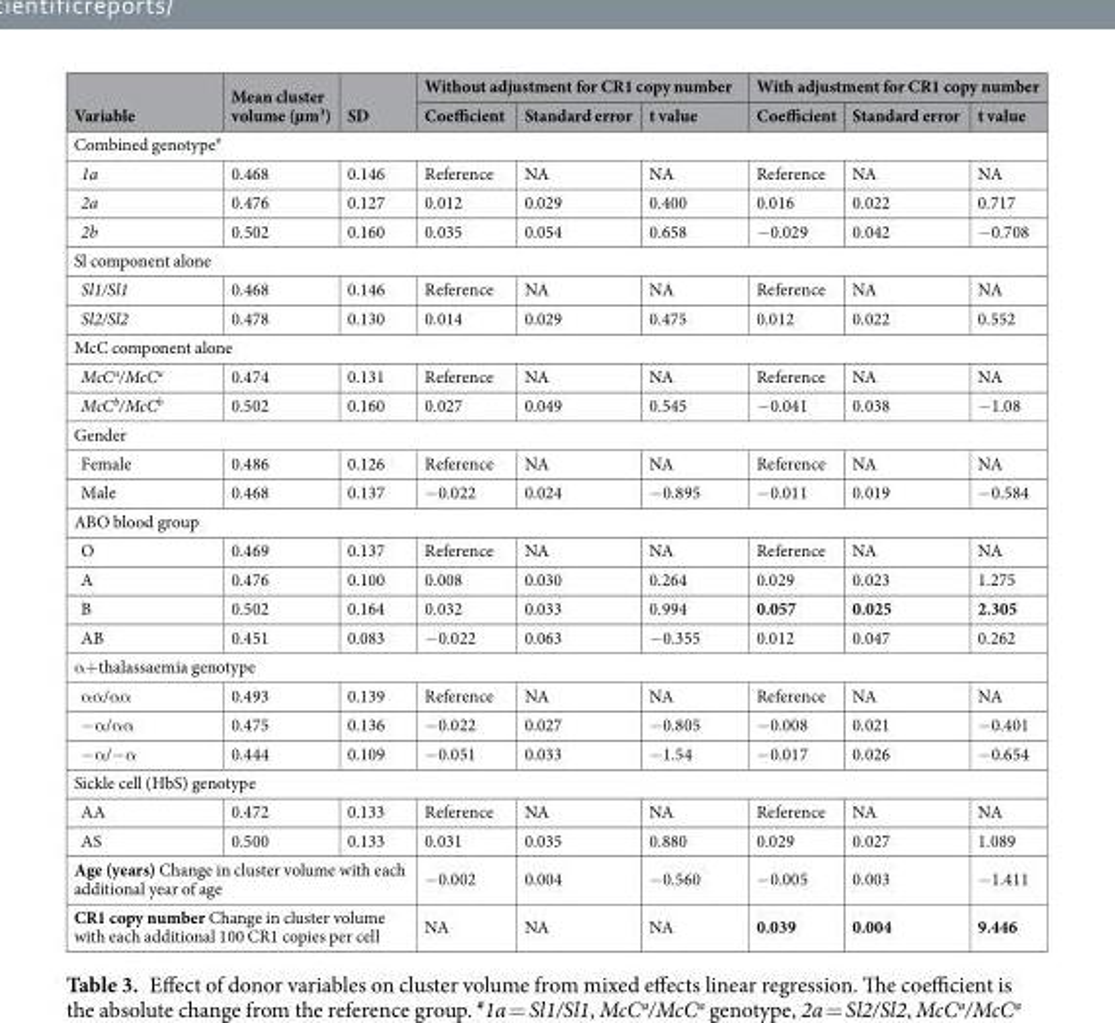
<table><thead><tr><td rowspan="2">Variable</td><td rowspan="2">Mean cluster volume (µm<sup>3</sup>)</td><td rowspan="2">SD</td><td colspan="3">Without adjustment for CR1 copy number</td><td colspan="3">With adjustment for CR1 copy number</td></tr><tr><td>Coefficient</td><td>Standard error</td><td>t value</td><td>Coefficient</td><td>Standard error</td><td>t value</td></tr></thead><tbody><tr><td colspan="9">Combined genotype<sup>#</sup></td></tr><tr><td>1a</td><td>0.468</td><td>0.146</td><td>Reference</td><td>NA</td><td>NA</td><td>Reference</td><td>NA</td><td>NA</td></tr><tr><td>2a</td><td>0.476</td><td>0.127</td><td>0.012</td><td>0.029</td><td>0.400</td><td>0.016</td><td>0.022</td><td>0.717</td></tr><tr><td>2b</td><td>0.502</td><td>0.160</td><td>0.035</td><td>0.054</td><td>0.658</td><td>−0.029</td><td>0.042</td><td>−0.708</td></tr><tr><td colspan="9">Sl component alone</td></tr><tr><td>Sl1/Sl1</td><td>0.468</td><td>0.146</td><td>Reference</td><td>NA</td><td>NA</td><td>Reference</td><td>NA</td><td>NA</td></tr><tr><td>Sl2/Sl2</td><td>0.478</td><td>0.130</td><td>0.014</td><td>0.029</td><td>0.475</td><td>0.012</td><td>0.022</td><td>0.552</td></tr><tr><td colspan="9">McC component alone</td></tr><tr><td>McC<sup>a</sup>/McC<sup>a</sup></td><td>0.474</td><td>0.131</td><td>Reference</td><td>NA</td><td>NA</td><td>Reference</td><td>NA</td><td>NA</td></tr><tr><td>McC<sup>b</sup>/McC<sup>b</sup></td><td>0.502</td><td>0.160</td><td>0.027</td><td>0.049</td><td>0.545</td><td>−0.041</td><td>0.038</td><td>−1.08</td></tr><tr><td colspan="9">Gender</td></tr><tr><td>Female</td><td>0.486</td><td>0.126</td><td>Reference</td><td>NA</td><td>NA</td><td>Reference</td><td>NA</td><td>NA</td></tr><tr><td>Male</td><td>0.468</td><td>0.137</td><td>−0.022</td><td>0.024</td><td>−0.895</td><td>−0.011</td><td>0.019</td><td>−0.584</td></tr><tr><td colspan="9">ABO blood group</td></tr><tr><td>O</td><td>0.469</td><td>0.137</td><td>Reference</td><td>NA</td><td>NA</td><td>Reference</td><td>NA</td><td>NA</td></tr><tr><td>A</td><td>0.476</td><td>0.100</td><td>0.008</td><td>0.030</td><td>0.264</td><td>0.029</td><td>0.023</td><td>1.275</td></tr><tr><td>B</td><td>0.502</td><td>0.164</td><td>0.032</td><td>0.033</td><td>0.994</td><td>0.057</td><td>0.025</td><td>2.305</td></tr><tr><td>AB</td><td>0.451</td><td>0.083</td><td>−0.022</td><td>0.063</td><td>−0.355</td><td>0.012</td><td>0.047</td><td>0.262</td></tr><tr><td colspan="9">α+thalassaemia genotype</td></tr><tr><td>αα/αα</td><td>0.493</td><td>0.139</td><td>Reference</td><td>NA</td><td>NA</td><td>Reference</td><td>NA</td><td>NA</td></tr><tr><td>−α/αα</td><td>0.475</td><td>0.136</td><td>−0.022</td><td>0.027</td><td>−0.805</td><td>−0.008</td><td>0.021</td><td>−0.401</td></tr><tr><td>−α/−α</td><td>0.444</td><td>0.109</td><td>−0.051</td><td>0.033</td><td>−1.54</td><td>−0.017</td><td>0.026</td><td>−0.654</td></tr><tr><td colspan="9">Sickle cell (HbS) genotype</td></tr><tr><td>AA</td><td>0.472</td><td>0.133</td><td>Reference</td><td>NA</td><td>NA</td><td>Reference</td><td>NA</td><td>NA</td></tr><tr><td>AS</td><td>0.500</td><td>0.133</td><td>0.031</td><td>0.035</td><td>0.880</td><td>0.029</td><td>0.027</td><td>1.089</td></tr><tr><td colspan="3">Age (years) Change in cluster volume with each additional year of age</td><td>−0.002</td><td>0.004</td><td>−0.560</td><td>−0.005</td><td>0.003</td><td>−1.411</td></tr><tr><td colspan="3">CR1 copy number Change in cluster volume with each additional 100 CR1 copies per cell</td><td>NA</td><td>NA</td><td>NA</td><td>0.039</td><td>0.004</td><td>9.446</td></tr></tbody></table>